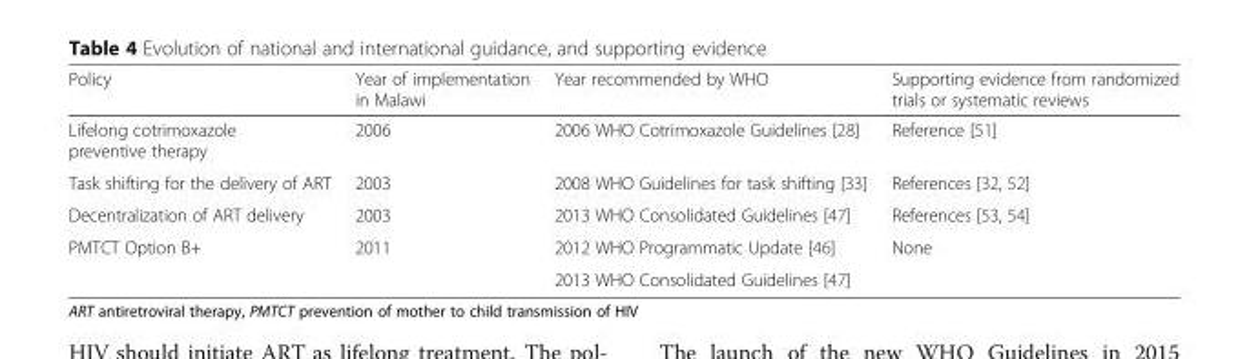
<table><thead><tr><td>Policy</td><td>Year of implementation in Malawi</td><td>Year recommended by WHO</td><td>Supporting evidence from randomized trials or systematic reviews</td></tr></thead><tbody><tr><td>Lifelong cotrimoxazole preventive therapy</td><td>2006</td><td>2006 WHO Cotrimoxazole Guidelines [28]</td><td>Reference [51]</td></tr><tr><td>Task shifting for the delivery of ART</td><td>2003</td><td>2008 WHO Guidelines for task shifting [33]</td><td>References [32, 52]</td></tr><tr><td>Decentralization of ART delivery</td><td>2003</td><td>2013 WHO Consolidated Guidelines [47]</td><td>References [53, 54]</td></tr><tr><td rowspan="2">PMTCT Option B+</td><td rowspan="2">2011</td><td>2012 WHO Programmatic Update [46]</td><td rowspan="2">None</td></tr><tr><td>2013 WHO Consolidated Guidelines [47]</td></tr></tbody></table>